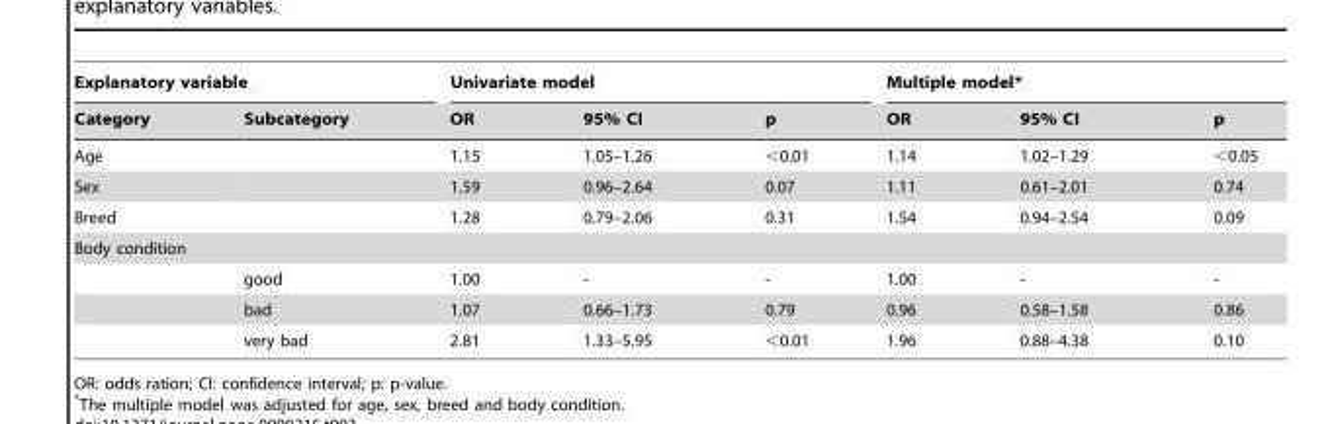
<table><thead><tr><td colspan="2">Explanatory variable</td><td colspan="3">Univariate model</td><td colspan="3">Multiple model*</td></tr><tr><td>Category</td><td>Subcategory</td><td>OR</td><td>95% CI</td><td>p</td><td>OR</td><td>95% CI</td><td>p</td></tr></thead><tbody><tr><td>Age</td><td></td><td>1.15</td><td>1.05–1.26</td><td>&lt;0.01</td><td>1.14</td><td>1.02–1.29</td><td>&lt;0.05</td></tr><tr><td>Sex</td><td></td><td>1.59</td><td>0.96–2.64</td><td>0.07</td><td>1.11</td><td>0.61–2.01</td><td>0.74</td></tr><tr><td>Breed</td><td></td><td>1.28</td><td>0.79–2.06</td><td>0.31</td><td>1.54</td><td>0.94–2.54</td><td>0.09</td></tr><tr><td colspan="8">Body condition</td></tr><tr><td></td><td>good</td><td>1.00</td><td>-</td><td>-</td><td>1.00</td><td>-</td><td>-</td></tr><tr><td></td><td>bad</td><td>1.07</td><td>0.66–1.73</td><td>0.79</td><td>0.96</td><td>0.58–1.58</td><td>0.86</td></tr><tr><td></td><td>very bad</td><td>2.81</td><td>1.33–5.95</td><td>&lt;0.01</td><td>1.96</td><td>0.88–4.38</td><td>0.10</td></tr></tbody></table>